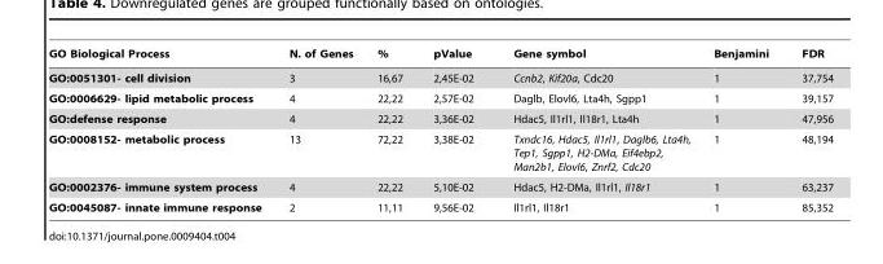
<table><thead><tr><td>GO Biological Process</td><td>N. of Genes</td><td>%</td><td>pValue</td><td>Gene symbol</td><td>Benjamini</td><td>FDR</td></tr></thead><tbody><tr><td>GO:0051301- cell division</td><td>3</td><td>16,67</td><td>2,45E-02</td><td>Ccnb2, Kif20a, Cdc20</td><td>1</td><td>37,754</td></tr><tr><td>GO:0006629- lipid metabolic process</td><td>4</td><td>22,22</td><td>2,57E-02</td><td>Daglb, Elovl6, Lta4h, Sgpp1</td><td>1</td><td>39,157</td></tr><tr><td>GO:defense response</td><td>4</td><td>22,22</td><td>3,36E-02</td><td>Hdac5, Il1rl1, Il18r1, Lta4h</td><td>1</td><td>47,956</td></tr><tr><td>GO:0008152- metabolic process</td><td>13</td><td>72,22</td><td>3,38E-02</td><td>Txndc16, Hdac5, Il1rl1, Daglb6, Lta4h, Tep1, Sgpp1, H2-DMa, Eif4ebp2, Man2b1, Elovl6, Znrf2, Cdc20</td><td>1</td><td>48,194</td></tr><tr><td>GO:0002376- immune system process</td><td>4</td><td>22,22</td><td>5,10E-02</td><td>Hdac5, H2-DMa, Il1rl1, Il18r1</td><td>1</td><td>63,237</td></tr><tr><td>GO:0045087- innate immune response</td><td>2</td><td>11,11</td><td>9,56E-02</td><td>Il1rl1, Il18r1</td><td>1</td><td>85,352</td></tr></tbody></table>